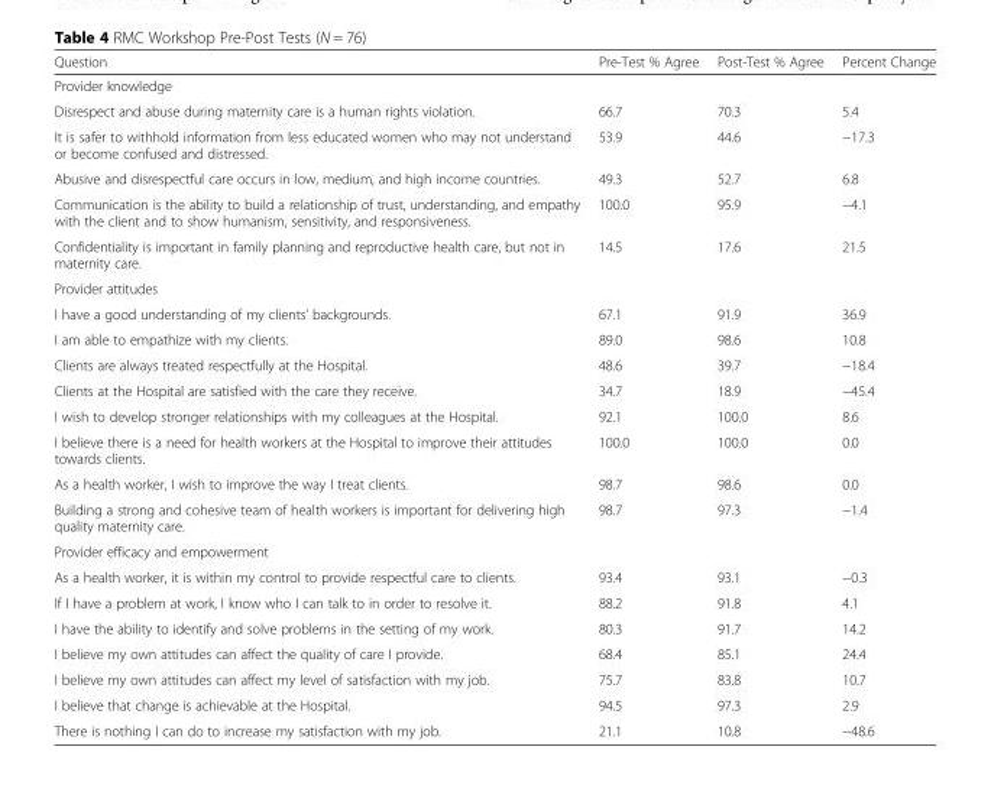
<table><thead><tr><td>Question</td><td>Pre-Test % Agree</td><td>Post-Test % Agree</td><td>Percent Change</td></tr></thead><tbody><tr><td colspan="4">Provider knowledge</td></tr><tr><td>Disrespect and abuse during maternity care is a human rights violation.</td><td>66.7</td><td>70.3</td><td>5.4</td></tr><tr><td>It is safer to withhold information from less educated women who may not understand or become confused and distressed.</td><td>53.9</td><td>44.6</td><td>−17.3</td></tr><tr><td>Abusive and disrespectful care occurs in low, medium, and high income countries.</td><td>49.3</td><td>52.7</td><td>6.8</td></tr><tr><td>Communication is the ability to build a relationship of trust, understanding, and empathy with the client and to show humanism, sensitivity, and responsiveness.</td><td>100.0</td><td>95.9</td><td>−4.1</td></tr><tr><td>Confidentiality is important in family planning and reproductive health care, but not in maternity care.</td><td>14.5</td><td>17.6</td><td>21.5</td></tr><tr><td colspan="4">Provider attitudes</td></tr><tr><td>I have a good understanding of my clients’ backgrounds.</td><td>67.1</td><td>91.9</td><td>36.9</td></tr><tr><td>I am able to empathize with my clients.</td><td>89.0</td><td>98.6</td><td>10.8</td></tr><tr><td>Clients are always treated respectfully at the Hospital.</td><td>48.6</td><td>39.7</td><td>−18.4</td></tr><tr><td>Clients at the Hospital are satisfied with the care they receive.</td><td>34.7</td><td>18.9</td><td>−45.4</td></tr><tr><td>I wish to develop stronger relationships with my colleagues at the Hospital.</td><td>92.1</td><td>100.0</td><td>8.6</td></tr><tr><td>I believe there is a need for health workers at the Hospital to improve their attitudes towards clients.</td><td>100.0</td><td>100.0</td><td>0.0</td></tr><tr><td>As a health worker, I wish to improve the way I treat clients.</td><td>98.7</td><td>98.6</td><td>0.0</td></tr><tr><td>Building a strong and cohesive team of health workers is important for delivering high quality maternity care.</td><td>98.7</td><td>97.3</td><td>−1.4</td></tr><tr><td colspan="4">Provider efficacy and empowerment</td></tr><tr><td>As a health worker, it is within my control to provide respectful care to clients.</td><td>93.4</td><td>93.1</td><td>−0.3</td></tr><tr><td>If I have a problem at work, I know who I can talk to in order to resolve it.</td><td>88.2</td><td>91.8</td><td>4.1</td></tr><tr><td>I have the ability to identify and solve problems in the setting of my work.</td><td>80.3</td><td>91.7</td><td>14.2</td></tr><tr><td>I believe my own attitudes can affect the quality of care I provide.</td><td>68.4</td><td>85.1</td><td>24.4</td></tr><tr><td>I believe my own attitudes can affect my level of satisfaction with my job.</td><td>75.7</td><td>83.8</td><td>10.7</td></tr><tr><td>I believe that change is achievable at the Hospital.</td><td>94.5</td><td>97.3</td><td>2.9</td></tr><tr><td>There is nothing I can do to increase my satisfaction with my job.</td><td>21.1</td><td>10.8</td><td>−48.6</td></tr></tbody></table>